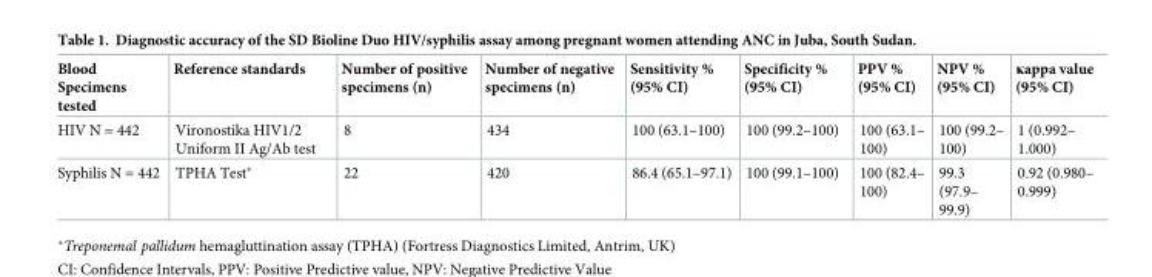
<table><thead><tr><td>Blood Specimens tested</td><td>Reference standards</td><td>Number of positive specimens (n)</td><td>Number of negative specimens (n)</td><td>Sensitivity % (95% CI)</td><td>Specificity % (95% CI)</td><td>PPV % (95% CI)</td><td>NPV % (95% CI)</td><td>κappa value (95% CI)</td></tr></thead><tbody><tr><td>HIV N = 442</td><td>Vironostika HIV1/2 Uniform II Ag/Ab test</td><td>8</td><td>434</td><td>100 (63.1–100)</td><td>100 (99.2–100)</td><td>100 (63.1– 100)</td><td>100 (99.2– 100)</td><td>1 (0.992– 1.000)</td></tr><tr><td>Syphilis N = 442</td><td>TPHA Test*</td><td>22</td><td>420</td><td>86.4 (65.1–97.1)</td><td>100 (99.1–100)</td><td>100 (82.4– 100)</td><td>99.3 (97.9– 99.9)</td><td>0.92 (0.980– 0.999)</td></tr></tbody></table>